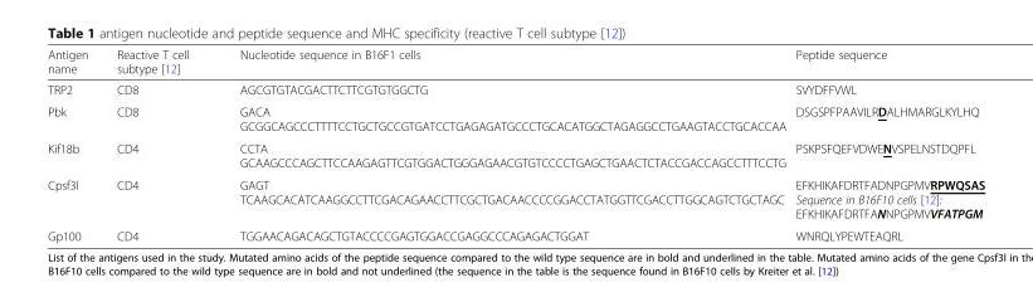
<table><thead><tr><td>Antigen name</td><td>Reactive T cell subtype [12]</td><td>Nucleotide sequence in B16F1 cells</td><td>Peptide sequence</td></tr></thead><tbody><tr><td>TRP2</td><td>CD8</td><td>AGCGTGTACGACTTCTTCGTGTGGCTG</td><td>SVYDFFVWL</td></tr><tr><td>Pbk</td><td>CD8</td><td>GACA GCGGCAGCCCTTTTCCTGCTGCCGTGATCCTGAGAGATGCCCTGCACATGGCTAGAGGCCTGAAGTACCTGCACCAA</td><td>DSGSPFPAAVILRDALHMARGLKYLHQ</td></tr><tr><td>Kif18b</td><td>CD4</td><td>CCTA GCAAGCCCAGCTTCCAAGAGTTCGTGGACTGGGAGAACGTGTCCCCTGAGCTGAACTCTACCGACCAGCCTTTCCTG</td><td>PSKPSFQEFVDWENVSPELNSTDQPFL</td></tr><tr><td>Cpsf3l</td><td>CD4</td><td>GAGT TCAAGCACATCAAGGCCTTCGACAGAACCTTCGCTGACAACCCCGGACCTATGGTTCGACCTTGGCAGTCTGCTAGC</td><td>EFKHIKAFDRTFADNPGPMVRPWQSAS Sequence in B16F10 cells [12]: EFKHIKAFDRTFANNPGPMVVFATPGM</td></tr><tr><td>Gp100</td><td>CD4</td><td>TGGAACAGACAGCTGTACCCCGAGTGGACCGAGGCCCAGAGACTGGAT</td><td>WNRQLYPEWTEAQRL</td></tr></tbody></table>